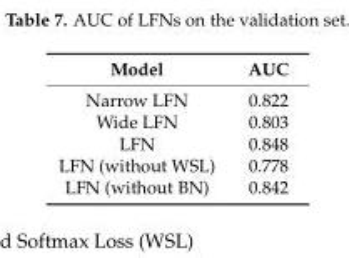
<table><thead><tr><td>Model</td><td>AUC</td></tr></thead><tbody><tr><td>Narrow LFN</td><td>0.822</td></tr><tr><td>Wide LFN</td><td>0.803</td></tr><tr><td>LFN</td><td>0.848</td></tr><tr><td>LFN (without WSL)</td><td>0.778</td></tr><tr><td>LFN (without BN)</td><td>0.842</td></tr></tbody></table>